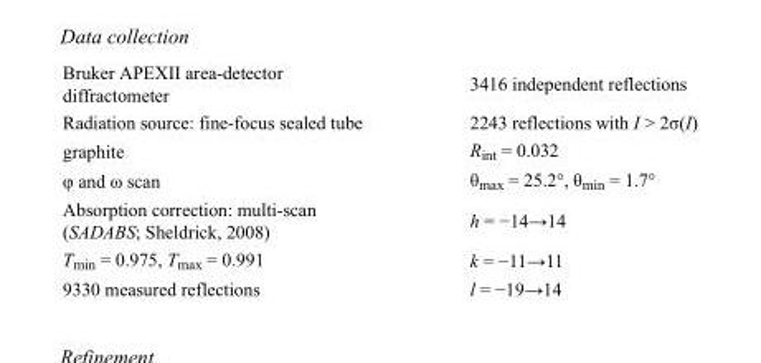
<table><tbody><tr><td>Bruker APEXII area-detector diffractometer</td><td>3416 independent reflections</td></tr><tr><td>Radiation source: fine-focus sealed tube</td><td>2243 reflections with I &gt; 2σ(I)</td></tr><tr><td>graphite</td><td>R<sub>int</sub> = 0.032</td></tr><tr><td>φ and ω scan</td><td>θ<sub>max</sub> = 25.2°, θ<sub>min</sub> = 1.7°</td></tr><tr><td>Absorption correction: multi-scan (SADABS; Sheldrick, 2008)</td><td>h = −14→14</td></tr><tr><td>T<sub>min</sub> = 0.975, T<sub>max</sub> = 0.991</td><td>k = −11→11</td></tr><tr><td>9330 measured reflections</td><td>l = −19→14</td></tr></tbody></table>